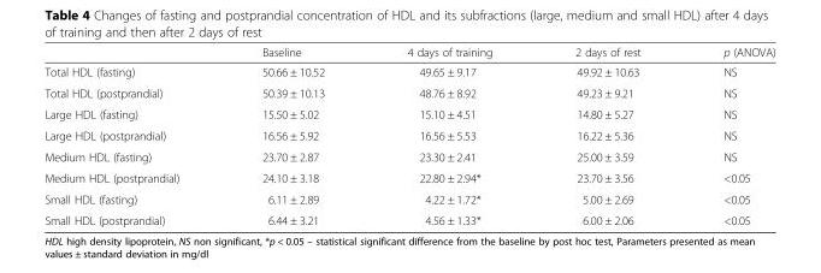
<table><thead><tr><td></td><td>Baseline</td><td>4 days of training</td><td>2 days of rest</td><td>p (ANOVA)</td></tr></thead><tbody><tr><td>Total HDL (fasting)</td><td>50.66 ± 10.52</td><td>49.65 ± 9.17</td><td>49.92 ± 10.63</td><td>NS</td></tr><tr><td>Total HDL (postprandial)</td><td>50.39 ± 10.13</td><td>48.76 ± 8.92</td><td>49.23 ± 9.21</td><td>NS</td></tr><tr><td>Large HDL (fasting)</td><td>15.50 ± 5.02</td><td>15.10 ± 4.51</td><td>14.80 ± 5.27</td><td>NS</td></tr><tr><td>Large HDL (postprandial)</td><td>16.56 ± 5.92</td><td>16.56 ± 5.53</td><td>16.22 ± 5.36</td><td>NS</td></tr><tr><td>Medium HDL (fasting)</td><td>23.70 ± 2.87</td><td>23.30 ± 2.41</td><td>25.00 ± 3.59</td><td>NS</td></tr><tr><td>Medium HDL (postprandial)</td><td>24.10 ± 3.18</td><td>22.80 ± 2.94*</td><td>23.70 ± 3.56</td><td>&lt;0.05</td></tr><tr><td>Small HDL (fasting)</td><td>6.11 ± 2.89</td><td>4.22 ± 1.72*</td><td>5.00 ± 2.69</td><td>&lt;0.05</td></tr><tr><td>Small HDL (postprandial)</td><td>6.44 ± 3.21</td><td>4.56 ± 1.33*</td><td>6.00 ± 2.06</td><td>&lt;0.05</td></tr></tbody></table>